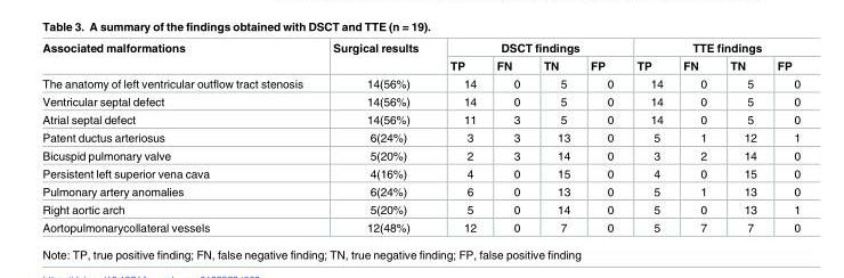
<table><thead><tr><td rowspan="2">Associated malformations</td><td rowspan="2">Surgical results</td><td colspan="4">DSCT findings</td><td colspan="4">TTE findings</td></tr><tr><td>TP</td><td>FN</td><td>TN</td><td>FP</td><td>TP</td><td>FN</td><td>TN</td><td>FP</td></tr></thead><tbody><tr><td>The anatomy of left ventricular outflow tract stenosis</td><td>14(56%)</td><td>14</td><td>0</td><td>5</td><td>0</td><td>14</td><td>0</td><td>5</td><td>0</td></tr><tr><td>Ventricular septal defect</td><td>14(56%)</td><td>14</td><td>0</td><td>5</td><td>0</td><td>14</td><td>0</td><td>5</td><td>0</td></tr><tr><td>Atrial septal defect</td><td>14(56%)</td><td>11</td><td>3</td><td>5</td><td>0</td><td>14</td><td>0</td><td>5</td><td>0</td></tr><tr><td>Patent ductus arteriosus</td><td>6(24%)</td><td>3</td><td>3</td><td>13</td><td>0</td><td>5</td><td>1</td><td>12</td><td>1</td></tr><tr><td>Bicuspid pulmonary valve</td><td>5(20%)</td><td>2</td><td>3</td><td>14</td><td>0</td><td>3</td><td>2</td><td>14</td><td>0</td></tr><tr><td>Persistent left superior vena cava</td><td>4(16%)</td><td>4</td><td>0</td><td>15</td><td>0</td><td>4</td><td>0</td><td>15</td><td>0</td></tr><tr><td>Pulmonary artery anomalies</td><td>6(24%)</td><td>6</td><td>0</td><td>13</td><td>0</td><td>5</td><td>1</td><td>13</td><td>0</td></tr><tr><td>Right aortic arch</td><td>5(20%)</td><td>5</td><td>0</td><td>14</td><td>0</td><td>5</td><td>0</td><td>13</td><td>1</td></tr><tr><td>Aortopulmonarycollateral vessels</td><td>12(48%)</td><td>12</td><td>0</td><td>7</td><td>0</td><td>5</td><td>7</td><td>7</td><td>0</td></tr></tbody></table>